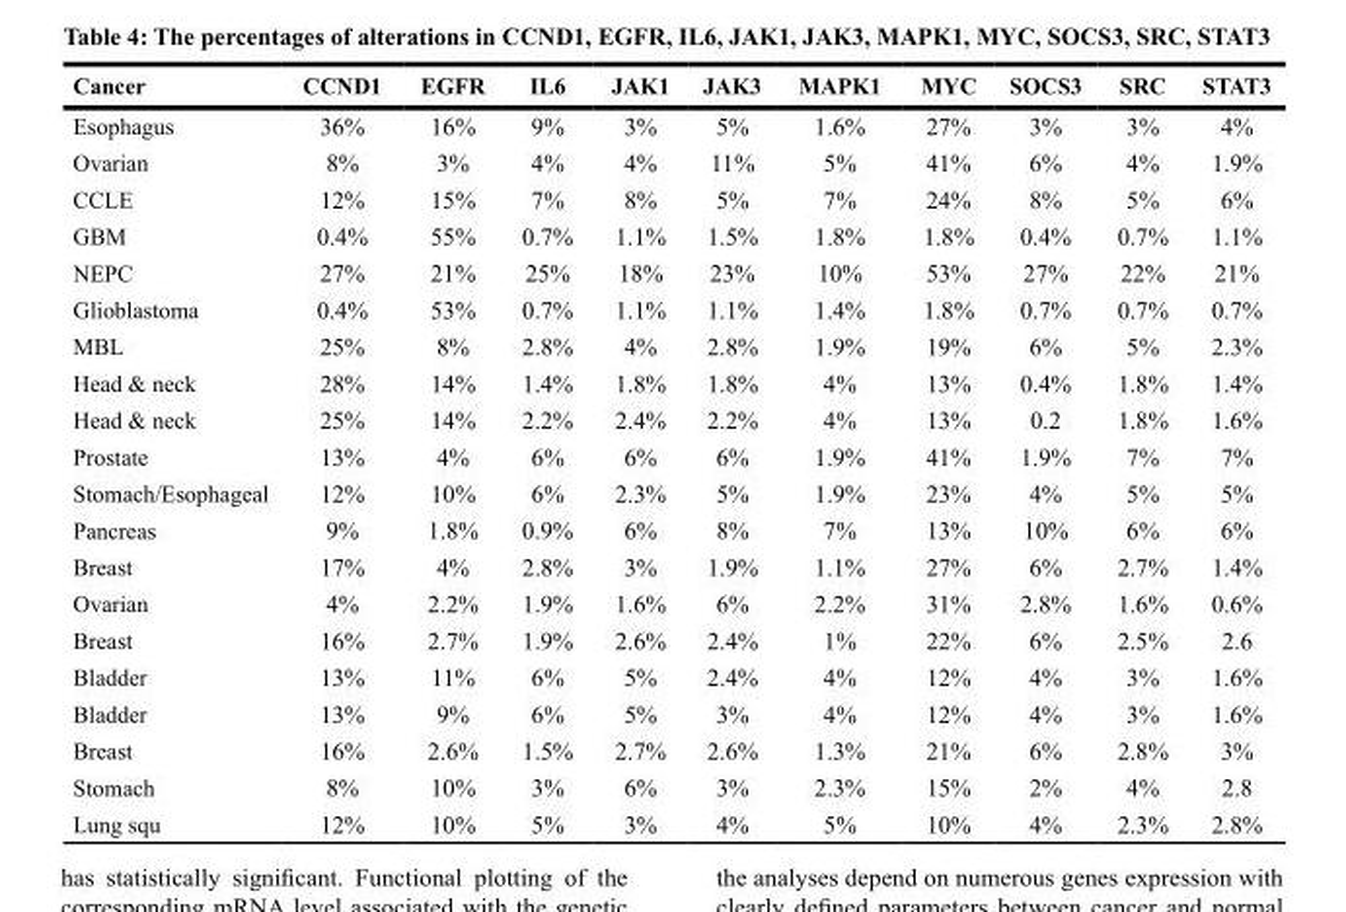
<table><thead><tr><td>Cancer</td><td>CCND1</td><td>EGFR</td><td>IL6</td><td>JAK1</td><td>JAK3</td><td>MAPK1</td><td>MYC</td><td>SOCS3</td><td>SRC</td><td>STAT3</td></tr></thead><tbody><tr><td>Esophagus</td><td>36%</td><td>16%</td><td>9%</td><td>3%</td><td>5%</td><td>1.6%</td><td>27%</td><td>3%</td><td>3%</td><td>4%</td></tr><tr><td>Ovarian</td><td>8%</td><td>3%</td><td>4%</td><td>4%</td><td>11%</td><td>5%</td><td>41%</td><td>6%</td><td>4%</td><td>1.9%</td></tr><tr><td>CCLE</td><td>12%</td><td>15%</td><td>7%</td><td>8%</td><td>5%</td><td>7%</td><td>24%</td><td>8%</td><td>5%</td><td>6%</td></tr><tr><td>GBM</td><td>0.4%</td><td>55%</td><td>0.7%</td><td>1.1%</td><td>1.5%</td><td>1.8%</td><td>1.8%</td><td>0.4%</td><td>0.7%</td><td>1.1%</td></tr><tr><td>NEPC</td><td>27%</td><td>21%</td><td>25%</td><td>18%</td><td>23%</td><td>10%</td><td>53%</td><td>27%</td><td>22%</td><td>21%</td></tr><tr><td>Glioblastoma</td><td>0.4%</td><td>53%</td><td>0.7%</td><td>1.1%</td><td>1.1%</td><td>1.4%</td><td>1.8%</td><td>0.7%</td><td>0.7%</td><td>0.7%</td></tr><tr><td>MBL</td><td>25%</td><td>8%</td><td>2.8%</td><td>4%</td><td>2.8%</td><td>1.9%</td><td>19%</td><td>6%</td><td>5%</td><td>2.3%</td></tr><tr><td>Head &amp; neck</td><td>28%</td><td>14%</td><td>1.4%</td><td>1.8%</td><td>1.8%</td><td>4%</td><td>13%</td><td>0.4%</td><td>1.8%</td><td>1.4%</td></tr><tr><td>Head &amp; neck</td><td>25%</td><td>14%</td><td>2.2%</td><td>2.4%</td><td>2.2%</td><td>4%</td><td>13%</td><td>0.2</td><td>1.8%</td><td>1.6%</td></tr><tr><td>Prostate</td><td>13%</td><td>4%</td><td>6%</td><td>6%</td><td>6%</td><td>1.9%</td><td>41%</td><td>1.9%</td><td>7%</td><td>7%</td></tr><tr><td>Stomach/Esophageal</td><td>12%</td><td>10%</td><td>6%</td><td>2.3%</td><td>5%</td><td>1.9%</td><td>23%</td><td>4%</td><td>5%</td><td>5%</td></tr><tr><td>Pancreas</td><td>9%</td><td>1.8%</td><td>0.9%</td><td>6%</td><td>8%</td><td>7%</td><td>13%</td><td>10%</td><td>6%</td><td>6%</td></tr><tr><td>Breast</td><td>17%</td><td>4%</td><td>2.8%</td><td>3%</td><td>1.9%</td><td>1.1%</td><td>27%</td><td>6%</td><td>2.7%</td><td>1.4%</td></tr><tr><td>Ovarian</td><td>4%</td><td>2.2%</td><td>1.9%</td><td>1.6%</td><td>6%</td><td>2.2%</td><td>31%</td><td>2.8%</td><td>1.6%</td><td>0.6%</td></tr><tr><td>Breast</td><td>16%</td><td>2.7%</td><td>1.9%</td><td>2.6%</td><td>2.4%</td><td>1%</td><td>22%</td><td>6%</td><td>2.5%</td><td>2.6</td></tr><tr><td>Bladder</td><td>13%</td><td>11%</td><td>6%</td><td>5%</td><td>2.4%</td><td>4%</td><td>12%</td><td>4%</td><td>3%</td><td>1.6%</td></tr><tr><td>Bladder</td><td>13%</td><td>9%</td><td>6%</td><td>5%</td><td>3%</td><td>4%</td><td>12%</td><td>4%</td><td>3%</td><td>1.6%</td></tr><tr><td>Breast</td><td>16%</td><td>2.6%</td><td>1.5%</td><td>2.7%</td><td>2.6%</td><td>1.3%</td><td>21%</td><td>6%</td><td>2.8%</td><td>3%</td></tr><tr><td>Stomach</td><td>8%</td><td>10%</td><td>3%</td><td>6%</td><td>3%</td><td>2.3%</td><td>15%</td><td>2%</td><td>4%</td><td>2.8</td></tr><tr><td>Lung squ</td><td>12%</td><td>10%</td><td>5%</td><td>3%</td><td>4%</td><td>5%</td><td>10%</td><td>4%</td><td>2.3%</td><td>2.8%</td></tr></tbody></table>